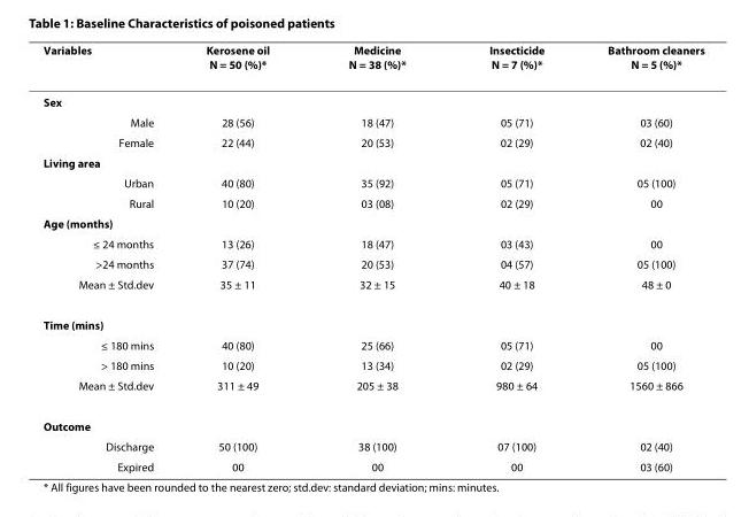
<table><thead><tr><td>Variables</td><td>Kerosene oil N = 50 (%)*</td><td>Medicine N = 38 (%)*</td><td>Insecticide N = 7 (%)*</td><td>Bathroom cleaners N = 5 (%)*</td></tr></thead><tbody><tr><td colspan="5">Sex</td></tr><tr><td>Male</td><td>28 (56)</td><td>18 (47)</td><td>05 (71)</td><td>03 (60)</td></tr><tr><td>Female</td><td>22 (44)</td><td>20 (53)</td><td>02 (29)</td><td>02 (40)</td></tr><tr><td colspan="5">Living area</td></tr><tr><td>Urban</td><td>40 (80)</td><td>35 (92)</td><td>05 (71)</td><td>05 (100)</td></tr><tr><td>Rural</td><td>10 (20)</td><td>03 (08)</td><td>02 (29)</td><td>00</td></tr><tr><td colspan="5">Age (months)</td></tr><tr><td>≤ 24 months</td><td>13 (26)</td><td>18 (47)</td><td>03 (43)</td><td>00</td></tr><tr><td>&gt;24 months</td><td>37 (74)</td><td>20 (53)</td><td>04 (57)</td><td>05 (100)</td></tr><tr><td>Mean ± Std.dev</td><td>35 ± 11</td><td>32 ± 15</td><td>40 ± 18</td><td>48 ± 0</td></tr><tr><td colspan="5">Time (mins)</td></tr><tr><td>≤ 180 mins</td><td>40 (80)</td><td>25 (66)</td><td>05 (71)</td><td>00</td></tr><tr><td>&gt; 180 mins</td><td>10 (20)</td><td>13 (34)</td><td>02 (29)</td><td>05 (100)</td></tr><tr><td>Mean ± Std.dev</td><td>311 ± 49</td><td>205 ± 38</td><td>980 ± 64</td><td>1560 ± 866</td></tr><tr><td colspan="5">Outcome</td></tr><tr><td>Discharge</td><td>50 (100)</td><td>38 (100)</td><td>07 (100)</td><td>02 (40)</td></tr><tr><td>Expired</td><td>00</td><td>00</td><td>00</td><td>03 (60)</td></tr></tbody></table>